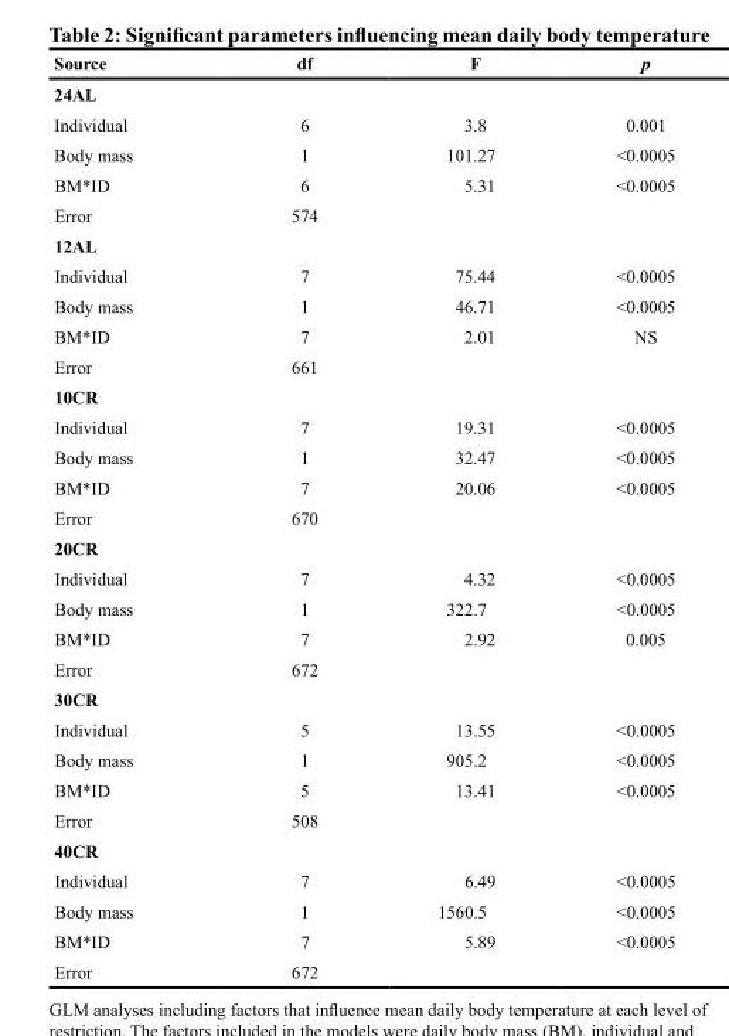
<table><thead><tr><td>Source</td><td>df</td><td>F</td><td>p</td></tr></thead><tbody><tr><td colspan="4">24AL</td></tr><tr><td>Individual</td><td>6</td><td>3.8</td><td>0.001</td></tr><tr><td>Body mass</td><td>1</td><td>101.27</td><td>&lt;0.0005</td></tr><tr><td>BM*ID</td><td>6</td><td>5.31</td><td>&lt;0.0005</td></tr><tr><td>Error</td><td>574</td><td></td><td></td></tr><tr><td colspan="4">12AL</td></tr><tr><td>Individual</td><td>7</td><td>75.44</td><td>&lt;0.0005</td></tr><tr><td>Body mass</td><td>1</td><td>46.71</td><td>&lt;0.0005</td></tr><tr><td>BM*ID</td><td>7</td><td>2.01</td><td>NS</td></tr><tr><td>Error</td><td>661</td><td></td><td></td></tr><tr><td colspan="4">10CR</td></tr><tr><td>Individual</td><td>7</td><td>19.31</td><td>&lt;0.0005</td></tr><tr><td>Body mass</td><td>1</td><td>32.47</td><td>&lt;0.0005</td></tr><tr><td>BM*ID</td><td>7</td><td>20.06</td><td>&lt;0.0005</td></tr><tr><td>Error</td><td>670</td><td></td><td></td></tr><tr><td colspan="4">20CR</td></tr><tr><td>Individual</td><td>7</td><td>4.32</td><td>&lt;0.0005</td></tr><tr><td>Body mass</td><td>1</td><td>322.7</td><td>&lt;0.0005</td></tr><tr><td>BM*ID</td><td>7</td><td>2.92</td><td>0.005</td></tr><tr><td>Error</td><td>672</td><td></td><td></td></tr><tr><td colspan="4">30CR</td></tr><tr><td>Individual</td><td>5</td><td>13.55</td><td>&lt;0.0005</td></tr><tr><td>Body mass</td><td>1</td><td>905.2</td><td>&lt;0.0005</td></tr><tr><td>BM*ID</td><td>5</td><td>13.41</td><td>&lt;0.0005</td></tr><tr><td>Error</td><td>508</td><td></td><td></td></tr><tr><td colspan="4">40CR</td></tr><tr><td>Individual</td><td>7</td><td>6.49</td><td>&lt;0.0005</td></tr><tr><td>Body mass</td><td>1</td><td>1560.5</td><td>&lt;0.0005</td></tr><tr><td>BM*ID</td><td>7</td><td>5.89</td><td>&lt;0.0005</td></tr><tr><td>Error</td><td>672</td><td></td><td></td></tr></tbody></table>